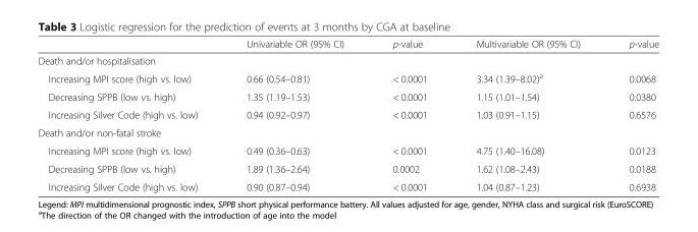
<table><thead><tr><td></td><td>Univariable OR (95% CI)</td><td>p-value</td><td>Multivariable OR (95% CI)</td><td>p-value</td></tr></thead><tbody><tr><td colspan="5">Death and/or hospitalisation</td></tr><tr><td>Increasing MPI score (high vs. low)</td><td>0.66 (0.54–0.81)</td><td>&lt; 0.0001</td><td>3.34 (1.39–8.02)<sup>a</sup></td><td>0.0068</td></tr><tr><td>Decreasing SPPB (low vs. high)</td><td>1.35 (1.19–1.53)</td><td>&lt; 0.0001</td><td>1.15 (1.01–1.54)</td><td>0.0380</td></tr><tr><td>Increasing Silver Code (high vs. low)</td><td>0.94 (0.92–0.97)</td><td>&lt; 0.0001</td><td>1.03 (0.91–1.15)</td><td>0.6576</td></tr><tr><td colspan="5">Death and/or non-fatal stroke</td></tr><tr><td>Increasing MPI score (high vs. low)</td><td>0.49 (0.36–0.63)</td><td>&lt; 0.0001</td><td>4.75 (1.40–16.08)</td><td>0.0123</td></tr><tr><td>Decreasing SPPB (low vs. high)</td><td>1.89 (1.36–2.64)</td><td>0.0002</td><td>1.62 (1.08–2.43)</td><td>0.0188</td></tr><tr><td>Increasing Silver Code (high vs. low)</td><td>0.90 (0.87–0.94)</td><td>&lt; 0.0001</td><td>1.04 (0.87–1.23)</td><td>0.6938</td></tr></tbody></table>